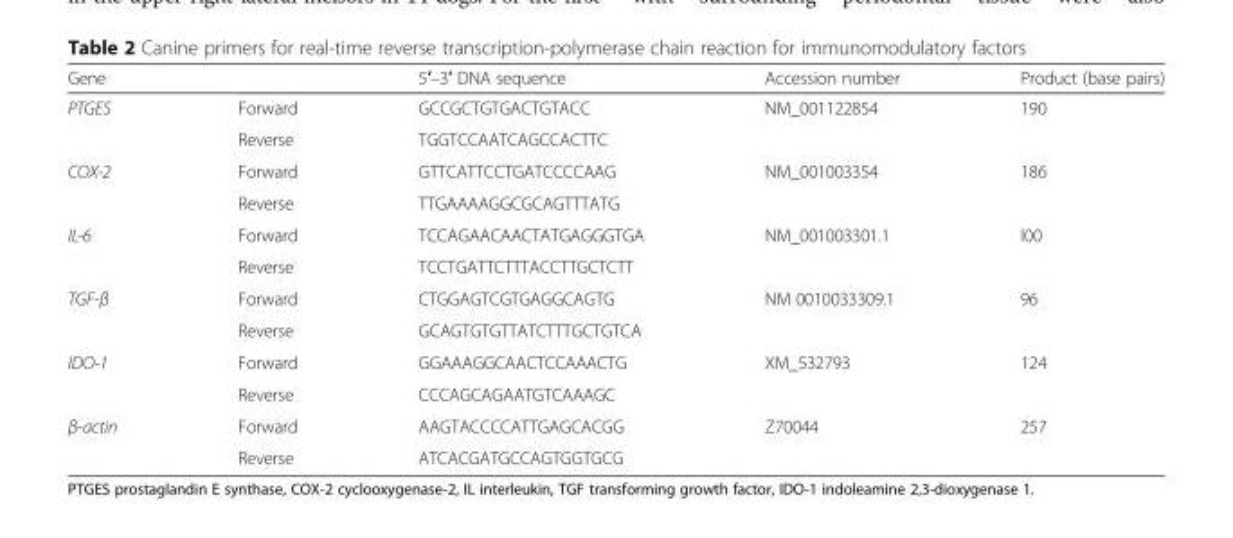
<table><thead><tr><td>Gene</td><td></td><td>5′–3′ DNA sequence</td><td>Accession number</td><td>Product (base pairs)</td></tr></thead><tbody><tr><td rowspan="2">PTGES</td><td>Forward</td><td>GCCGCTGTGACTGTACC</td><td rowspan="2">NM_001122854</td><td rowspan="2">190</td></tr><tr><td>Reverse</td><td>TGGTCCAATCAGCCACTTC</td></tr><tr><td rowspan="2">COX-2</td><td>Forward</td><td>GTTCATTCCTGATCCCCAAG</td><td rowspan="2">NM_001003354</td><td rowspan="2">186</td></tr><tr><td>Reverse</td><td>TTGAAAAGGCGCAGTTTATG</td></tr><tr><td rowspan="2">IL-6</td><td>Forward</td><td>TCCAGAACAACTATGAGGGTGA</td><td rowspan="2">NM_001003301.1</td><td rowspan="2">l00</td></tr><tr><td>Reverse</td><td>TCCTGATTCTTTACCTTGCTCTT</td></tr><tr><td rowspan="2">TGF-β</td><td>Forward</td><td>CTGGAGTCGTGAGGCAGTG</td><td rowspan="2">NM 0010033309.1</td><td rowspan="2">96</td></tr><tr><td>Reverse</td><td>GCAGTGTGTTATCTTTGCTGTCA</td></tr><tr><td rowspan="2">IDO-1</td><td>Forward</td><td>GGAAAGGCAACTCCAAACTG</td><td rowspan="2">XM_532793</td><td rowspan="2">124</td></tr><tr><td>Reverse</td><td>CCCAGCAGAATGTCAAAGC</td></tr><tr><td rowspan="2">β-actin</td><td>Forward</td><td>AAGTACCCCATTGAGCACGG</td><td rowspan="2">Z70044</td><td rowspan="2">257</td></tr><tr><td>Reverse</td><td>ATCACGATGCCAGTGGTGCG</td></tr></tbody></table>